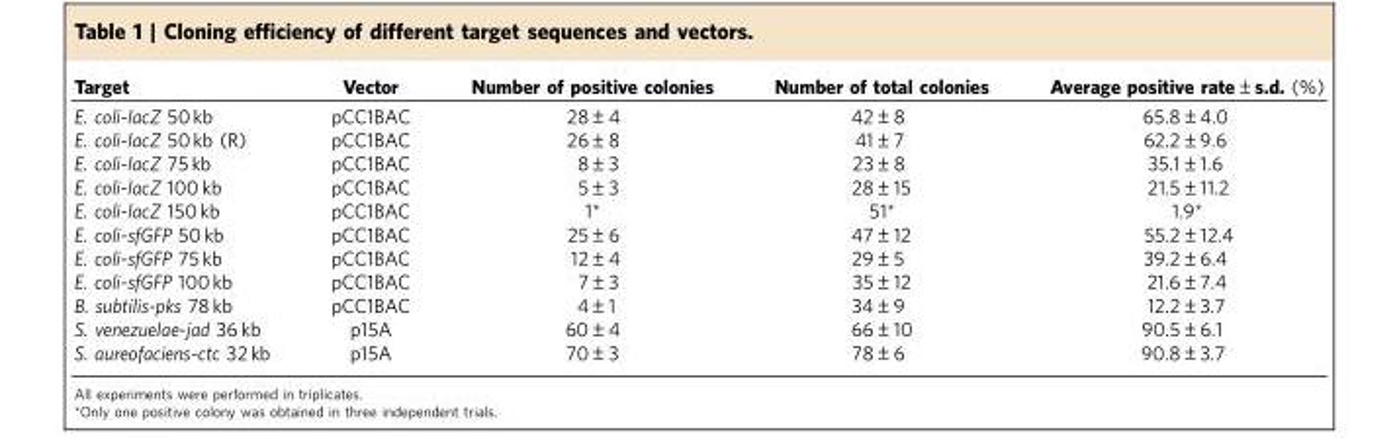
<table><thead><tr><td>Target</td><td>Vector</td><td>Number of positive colonies</td><td>Number of total colonies</td><td>Average positive rate±s.d. (%)</td></tr></thead><tbody><tr><td>E. coli-lacZ 50 kb</td><td>pCC1BAC</td><td>28±4</td><td>42±8</td><td>65.8±4.0</td></tr><tr><td>E. coli-lacZ 50 kb (R)</td><td>pCC1BAC</td><td>26±8</td><td>41±7</td><td>62.2±9.6</td></tr><tr><td>E. coli-lacZ 75 kb</td><td>pCC1BAC</td><td>8±3</td><td>23±8</td><td>35.1±1.6</td></tr><tr><td>E. coli-lacZ 100 kb</td><td>pCC1BAC</td><td>5±3</td><td>28±15</td><td>21.5±11.2</td></tr><tr><td>E. coli-lacZ 150 kb</td><td>pCC1BAC</td><td>1*</td><td>51*</td><td>1.9*</td></tr><tr><td>E. coli-sfGFP 50 kb</td><td>pCC1BAC</td><td>25±6</td><td>47±12</td><td>55.2±12.4</td></tr><tr><td>E. coli-sfGFP 75 kb</td><td>pCC1BAC</td><td>12±4</td><td>29±5</td><td>39.2±6.4</td></tr><tr><td>E. coli-sfGFP 100 kb</td><td>pCC1BAC</td><td>7±3</td><td>35±12</td><td>21.6±7.4</td></tr><tr><td>B. subtilis-pks 78 kb</td><td>pCC1BAC</td><td>4±1</td><td>34±9</td><td>12.2±3.7</td></tr><tr><td>S. venezuelae-jad 36 kb</td><td>p15A</td><td>60±4</td><td>66±10</td><td>90.5±6.1</td></tr><tr><td>S. aureofaciens-ctc 32 kb</td><td>p15A</td><td>70±3</td><td>78±6</td><td>90.8±3.7</td></tr></tbody></table>